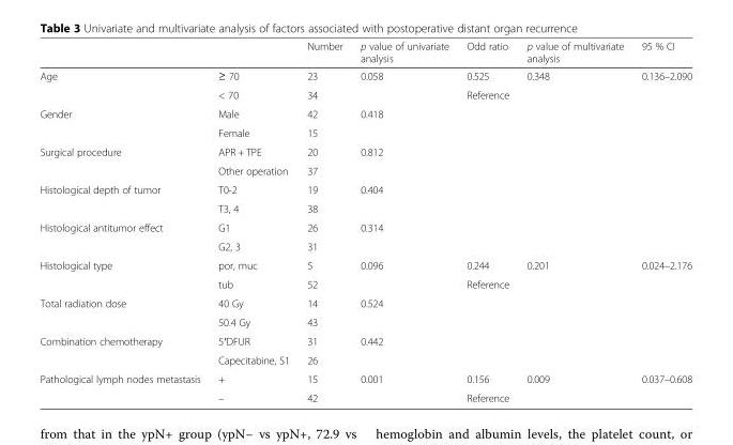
<table><thead><tr><td></td><td></td><td>Number</td><td>p value of univariate analysis</td><td>Odd ratio</td><td>p value of multivariate analysis</td><td>95 % CI</td></tr></thead><tbody><tr><td rowspan="2">Age</td><td>≥ 70</td><td>23</td><td>0.058</td><td>0.525</td><td>0.348</td><td>0.136–2.090</td></tr><tr><td>&lt; 70</td><td>34</td><td></td><td>Reference</td><td></td><td></td></tr><tr><td rowspan="2">Gender</td><td>Male</td><td>42</td><td>0.418</td><td></td><td></td><td></td></tr><tr><td>Female</td><td>15</td><td></td><td></td><td></td><td></td></tr><tr><td rowspan="2">Surgical procedure</td><td>APR + TPE</td><td>20</td><td>0.812</td><td></td><td></td><td></td></tr><tr><td>Other operation</td><td>37</td><td></td><td></td><td></td><td></td></tr><tr><td rowspan="2">Histological depth of tumor</td><td>T0-2</td><td>19</td><td>0.404</td><td></td><td></td><td></td></tr><tr><td>T3, 4</td><td>38</td><td></td><td></td><td></td><td></td></tr><tr><td rowspan="2">Histological antitumor effect</td><td>G1</td><td>26</td><td>0.314</td><td></td><td></td><td></td></tr><tr><td>G2, 3</td><td>31</td><td></td><td></td><td></td><td></td></tr><tr><td rowspan="2">Histological type</td><td>por, muc</td><td>5</td><td>0.096</td><td>0.244</td><td>0.201</td><td>0.024–2.176</td></tr><tr><td>tub</td><td>52</td><td></td><td>Reference</td><td></td><td></td></tr><tr><td rowspan="2">Total radiation dose</td><td>40 Gy</td><td>14</td><td>0.524</td><td></td><td></td><td></td></tr><tr><td>50.4 Gy</td><td>43</td><td></td><td></td><td></td><td></td></tr><tr><td rowspan="2">Combination chemotherapy</td><td>5′DFUR</td><td>31</td><td>0.442</td><td></td><td></td><td></td></tr><tr><td>Capecitabine, S1</td><td>26</td><td></td><td></td><td></td><td></td></tr><tr><td rowspan="2">Pathological lymph nodes metastasis</td><td>+</td><td>15</td><td>0.001</td><td>0.156</td><td>0.009</td><td>0.037–0.608</td></tr><tr><td>–</td><td>42</td><td></td><td>Reference</td><td></td><td></td></tr></tbody></table>